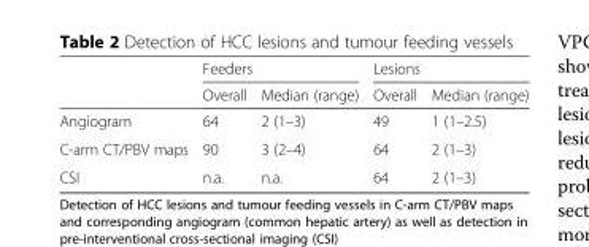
<table><thead><tr><td rowspan="2"></td><td colspan="2">Feeders</td><td colspan="2">Lesions</td></tr><tr><td>Overall</td><td>Median (range)</td><td>Overall</td><td>Median (range)</td></tr></thead><tbody><tr><td>Angiogram</td><td>64</td><td>2 (1–3)</td><td>49</td><td>1 (1–2.5)</td></tr><tr><td>C-arm CT/PBV maps</td><td>90</td><td>3 (2–4)</td><td>64</td><td>2 (1–3)</td></tr><tr><td>CSI</td><td>n.a.</td><td>n.a.</td><td>64</td><td>2 (1–3)</td></tr></tbody></table>